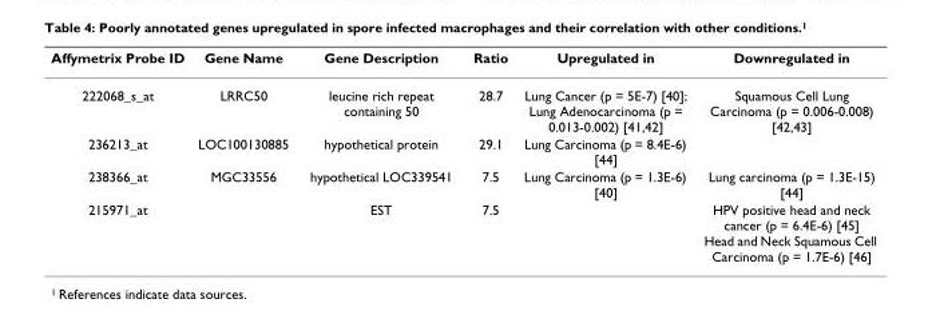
<table><thead><tr><td>Affymetrix Probe ID</td><td>Gene Name</td><td>Gene Description</td><td>Ratio</td><td>Upregulated in</td><td>Downregulated in</td></tr></thead><tbody><tr><td>222068_s_at</td><td>LRRC50</td><td>leucine rich repeat containing 50</td><td>28.7</td><td>Lung Cancer (p = 5E-7) [40]; Lung Adenocarcinoma (p = 0.013-0.002) [41,42]</td><td>Squamous Cell Lung Carcinoma (p = 0.006-0.008) [42,43]</td></tr><tr><td>236213_at</td><td>LOC100130885</td><td>hypothetical protein</td><td>29.1</td><td>Lung Carcinoma (p = 8.4E-6) [44]</td><td></td></tr><tr><td>238366_at</td><td>MGC33556</td><td>hypothetical LOC339541</td><td>7.5</td><td>Lung Carcinoma (p = 1.3E-6) [40]</td><td>Lung carcinoma (p = 1.3E-15) [44]</td></tr><tr><td>215971_at</td><td></td><td>EST</td><td>7.5</td><td></td><td>HPV positive head and neck cancer (p = 6.4E-6) [45] Head and Neck Squamous Cell Carcinoma (p = 1.7E-6) [46]</td></tr></tbody></table>